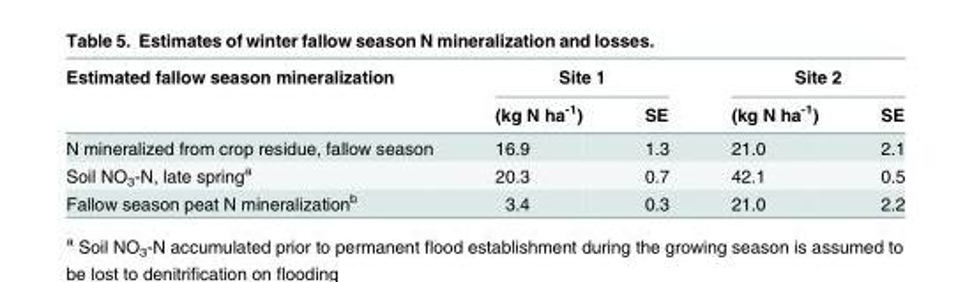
<table><thead><tr><td rowspan="2">Estimated fallow season mineralization</td><td colspan="2">Site 1</td><td colspan="2">Site 2</td></tr><tr><td>(kg N ha<sup>-1</sup>)</td><td>SE</td><td>(kg N ha<sup>-1</sup>)</td><td>SE</td></tr></thead><tbody><tr><td>N mineralized from crop residue, fallow season</td><td>16.9</td><td>1.3</td><td>21.0</td><td>2.1</td></tr><tr><td>Soil NO<sub>3</sub>-N, late spring<sup>a</sup></td><td>20.3</td><td>0.7</td><td>42.1</td><td>0.5</td></tr><tr><td>Fallow season peat N mineralization<sup>b</sup></td><td>3.4</td><td>0.3</td><td>21.0</td><td>2.2</td></tr></tbody></table>